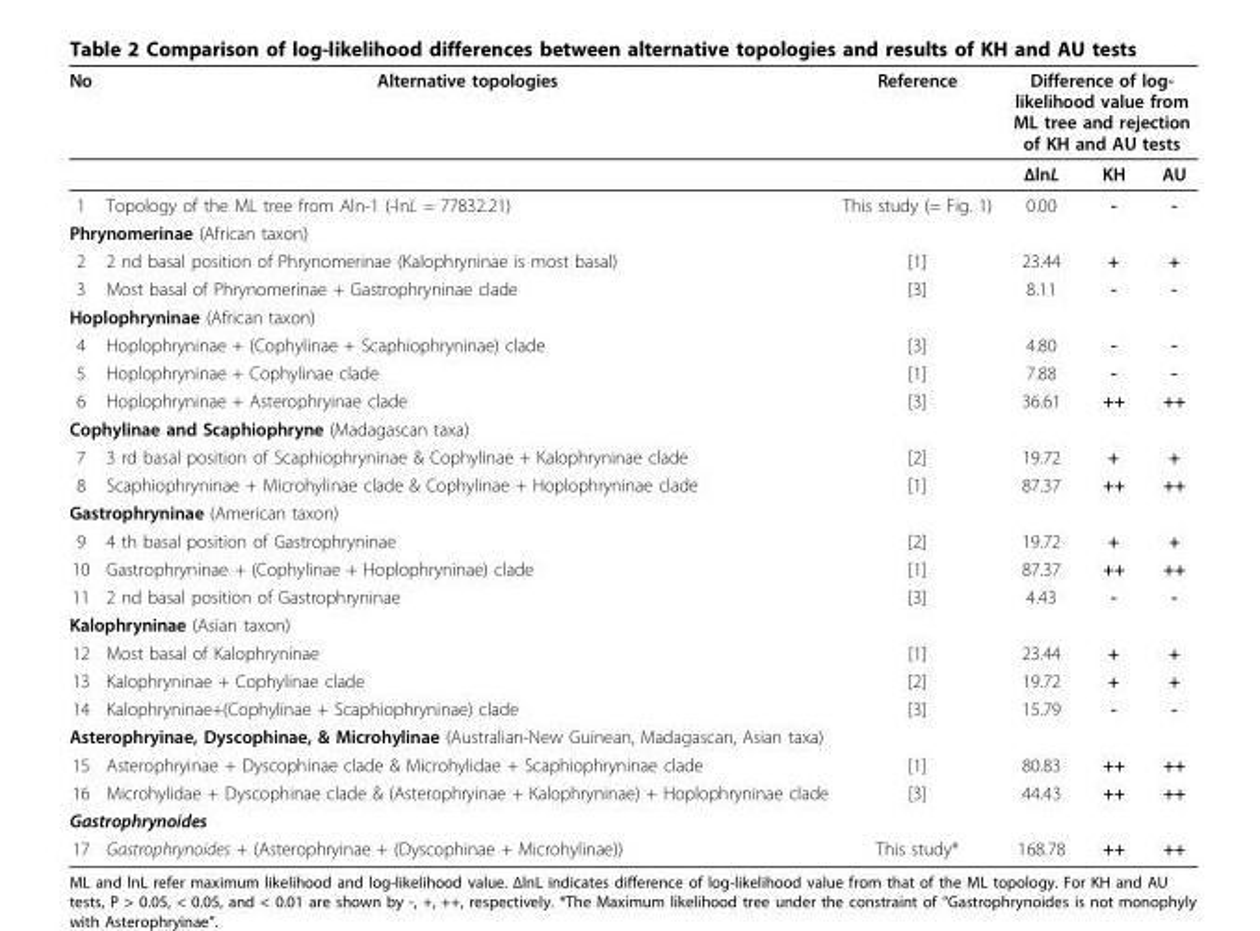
<table><thead><tr><td rowspan="2">No</td><td rowspan="2">Alternative topologies</td><td rowspan="2">Reference</td><td colspan="3">Difference of log- likelihood value from ML tree and rejection of KH and AU tests</td></tr><tr><td>ΔlnL</td><td>KH</td><td>AU</td></tr></thead><tbody><tr><td>1</td><td>Topology of the ML tree from Aln-1 (-lnL = 77832.21)</td><td>This study (= Fig. 1)</td><td>0.00</td><td>-</td><td>-</td></tr><tr><td colspan="6">Phrynomerinae (African taxon)</td></tr><tr><td>2</td><td>2 nd basal position of Phrynomerinae (Kalophryninae is most basal)</td><td>[1]</td><td>23.44</td><td>+</td><td>+</td></tr><tr><td>3</td><td>Most basal of Phrynomerinae + Gastrophryninae clade</td><td>[3]</td><td>8.11</td><td>-</td><td>-</td></tr><tr><td colspan="6">Hoplophryninae (African taxon)</td></tr><tr><td>4</td><td>Hoplophryninae + (Cophylinae + Scaphiophryninae) clade</td><td>[3]</td><td>4.80</td><td>-</td><td>-</td></tr><tr><td>5</td><td>Hoplophryninae + Cophylinae clade</td><td>[1]</td><td>7.88</td><td>-</td><td>-</td></tr><tr><td>6</td><td>Hoplophryninae + Asterophryinae clade</td><td>[3]</td><td>36.61</td><td>++</td><td>++</td></tr><tr><td colspan="6">Cophylinae and Scaphiophryne (Madagascan taxa)</td></tr><tr><td>7</td><td>3 rd basal position of Scaphiophryninae &amp; Cophylinae + Kalophryninae clade</td><td>[2]</td><td>19.72</td><td>+</td><td>+</td></tr><tr><td>8</td><td>Scaphiophryninae + Microhylinae clade &amp; Cophylinae + Hoplophryninae clade</td><td>[1]</td><td>87.37</td><td>++</td><td>++</td></tr><tr><td colspan="6">Gastrophryninae (American taxon)</td></tr><tr><td>9</td><td>4 th basal position of Gastrophryninae</td><td>[2]</td><td>19.72</td><td>+</td><td>+</td></tr><tr><td>10</td><td>Gastrophryninae + (Cophylinae + Hoplophryninae) clade</td><td>[1]</td><td>87.37</td><td>++</td><td>++</td></tr><tr><td>11</td><td>2 nd basal position of Gastrophryninae</td><td>[3]</td><td>4.43</td><td>-</td><td>-</td></tr><tr><td colspan="6">Kalophryninae (Asian taxon)</td></tr><tr><td>12</td><td>Most basal of Kalophryninae</td><td>[1]</td><td>23.44</td><td>+</td><td>+</td></tr><tr><td>13</td><td>Kalophryninae + Cophylinae clade</td><td>[2]</td><td>19.72</td><td>+</td><td>+</td></tr><tr><td>14</td><td>Kalophryninae+(Cophylinae + Scaphiophryninae) clade</td><td>[3]</td><td>15.79</td><td>-</td><td>-</td></tr><tr><td colspan="6">Asterophryinae, Dyscophinae, &amp; Microhylinae (Australian-New Guinean, Madagascan, Asian taxa)</td></tr><tr><td>15</td><td>Asterophryinae + Dyscophinae clade &amp; Microhylidae + Scaphiophryninae clade</td><td>[1]</td><td>80.83</td><td>++</td><td>++</td></tr><tr><td>16</td><td>Microhylidae + Dyscophinae clade &amp; (Asterophryinae + Kalophryninae) + Hoplophryninae clade</td><td>[3]</td><td>44.43</td><td>++</td><td>++</td></tr><tr><td colspan="6">Gastrophrynoides</td></tr><tr><td>17</td><td>Gastrophrynoides + (Asterophryinae + (Dyscophinae + Microhylinae))</td><td>This study*</td><td>168.78</td><td>++</td><td>++</td></tr></tbody></table>